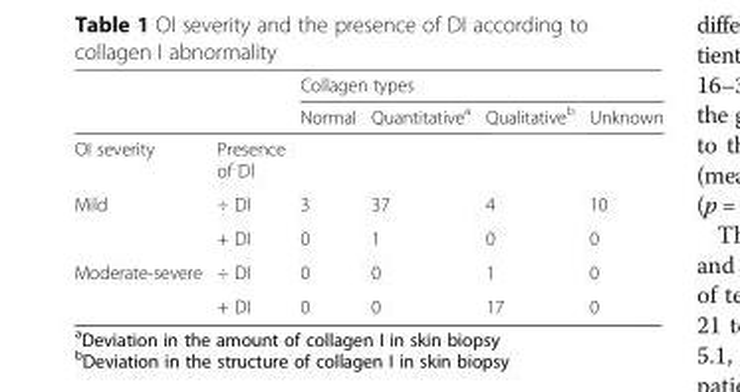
<table><thead><tr><td rowspan="2"></td><td rowspan="2"></td><td colspan="4">Collagen types</td></tr><tr><td>Normal</td><td>Quantitative<sup>a</sup></td><td>Qualitative<sup>b</sup></td><td>Unknown</td></tr></thead><tbody><tr><td>OI severity</td><td>Presence of DI</td><td></td><td></td><td></td><td></td></tr><tr><td rowspan="2">Mild</td><td>÷ DI</td><td>3</td><td>37</td><td>4</td><td>10</td></tr><tr><td>+ DI</td><td>0</td><td>1</td><td>0</td><td>0</td></tr><tr><td rowspan="2">Moderate-severe</td><td>÷ DI</td><td>0</td><td>0</td><td>1</td><td>0</td></tr><tr><td>+ DI</td><td>0</td><td>0</td><td>17</td><td>0</td></tr></tbody></table>